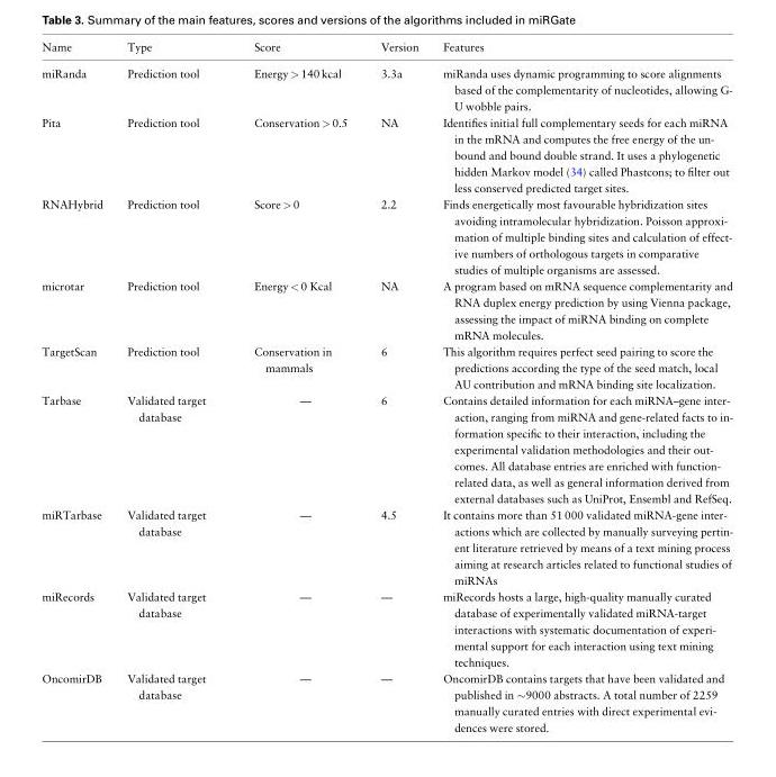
<table><thead><tr><td>Name</td><td>Type</td><td>Score</td><td>Version</td><td>Features</td></tr></thead><tbody><tr><td>miRanda</td><td>Prediction tool</td><td>Energy &gt; 140 kcal</td><td>3.3a</td><td>miRanda uses dynamic programming to score alignments based of the complementarity of nucleotides, allowing G- U wobble pairs.</td></tr><tr><td>Pita</td><td>Prediction tool</td><td>Conservation &gt; 0.5</td><td>NA</td><td>Identifies initial full complementary seeds for each miRNA in the mRNA and computes the free energy of the un- bound and bound double strand. It uses a phylogenetic hidden Markov model (34) called Phastcons; to filter out less conserved predicted target sites.</td></tr><tr><td>RNAHybrid</td><td>Prediction tool</td><td>Score &gt; 0</td><td>2.2</td><td>Finds energetically most favourable hybridization sites avoiding intramolecular hybridization. Poisson approxi- mation of multiple binding sites and calculation of effect- ive numbers of orthologous targets in comparative studies of multiple organisms are assessed.</td></tr><tr><td>microtar</td><td>Prediction tool</td><td>Energy &lt; 0 Kcal</td><td>NA</td><td>A program based on mRNA sequence complementarity and RNA duplex energy prediction by using Vienna package, assessing the impact of miRNA binding on complete mRNA molecules.</td></tr><tr><td>TargetScan</td><td>Prediction tool</td><td>Conservation in mammals</td><td>6</td><td>This algorithm requires perfect seed pairing to score the predictions according the type of the seed match, local AU contribution and mRNA binding site localization.</td></tr><tr><td>Tarbase</td><td>Validated target database</td><td>—</td><td>6</td><td>Contains detailed information for each miRNA–gene inter- action, ranging from miRNA and gene-related facts to in- formation specific to their interaction, including the experimental validation methodologies and their out- comes. All database entries are enriched with function- related data, as well as general information derived from external databases such as UniProt, Ensembl and RefSeq.</td></tr><tr><td>miRTarbase</td><td>Validated target database</td><td>—</td><td>4.5</td><td>It contains more than 51 000 validated miRNA-gene inter- actions which are collected by manually surveying pertin- ent literature retrieved by means of a text mining process aiming at research articles related to functional studies of miRNAs</td></tr><tr><td>miRecords</td><td>Validated target database</td><td>—</td><td>—</td><td>miRecords hosts a large, high-quality manually curated database of experimentally validated miRNA-target interactions with systematic documentation of experi- mental support for each interaction using text mining techniques.</td></tr><tr><td>OncomirDB</td><td>Validated target database</td><td>—</td><td>—</td><td>OncomirDB contains targets that have been validated and published in �9000 abstracts. A total number of 2259 manually curated entries with direct experimental evi- dences were stored.</td></tr></tbody></table>